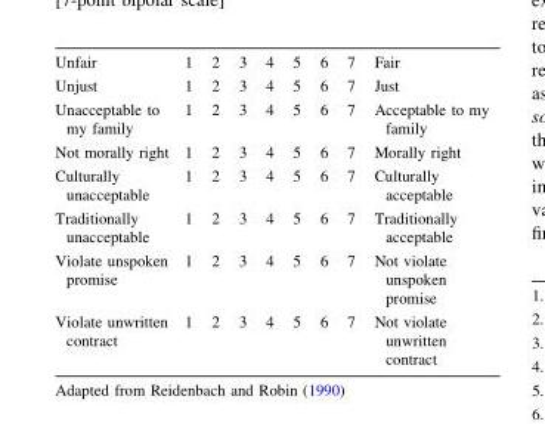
<table><tbody><tr><td>Unfair</td><td>1</td><td>2</td><td>3</td><td>4</td><td>5</td><td>6</td><td>7</td><td>Fair</td></tr><tr><td>Unjust</td><td>1</td><td>2</td><td>3</td><td>4</td><td>5</td><td>6</td><td>7</td><td>Just</td></tr><tr><td>Unacceptable to my family</td><td>1</td><td>2</td><td>3</td><td>4</td><td>5</td><td>6</td><td>7</td><td>Acceptable to my family</td></tr><tr><td>Not morally right</td><td>1</td><td>2</td><td>3</td><td>4</td><td>5</td><td>6</td><td>7</td><td>Morally right</td></tr><tr><td>Culturally unacceptable</td><td>1</td><td>2</td><td>3</td><td>4</td><td>5</td><td>6</td><td>7</td><td>Culturally acceptable</td></tr><tr><td>Traditionally unacceptable</td><td>1</td><td>2</td><td>3</td><td>4</td><td>5</td><td>6</td><td>7</td><td>Traditionally acceptable</td></tr><tr><td>Violate unspoken promise</td><td>1</td><td>2</td><td>3</td><td>4</td><td>5</td><td>6</td><td>7</td><td>Not violate unspoken promise</td></tr><tr><td>Violate unwritten contract</td><td>1</td><td>2</td><td>3</td><td>4</td><td>5</td><td>6</td><td>7</td><td>Not violate unwritten contract</td></tr></tbody></table>